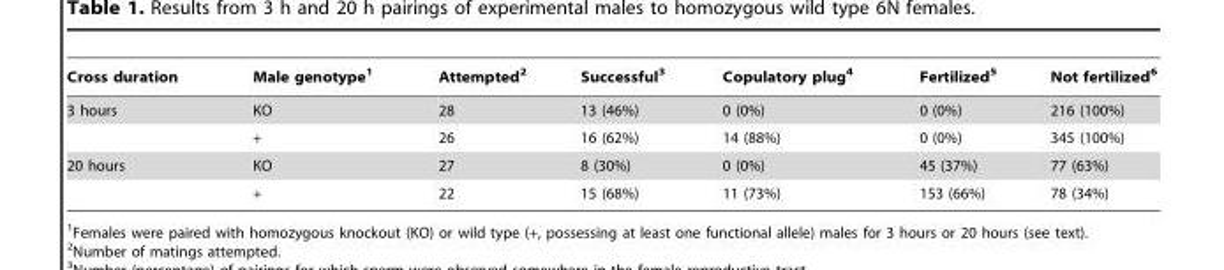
<table><thead><tr><td>Cross duration</td><td>Male genotype<sup>1</sup></td><td>Attempted<sup>2</sup></td><td>Successful<sup>3</sup></td><td>Copulatory plug<sup>4</sup></td><td>Fertilized<sup>5</sup></td><td>Not fertilized<sup>6</sup></td></tr></thead><tbody><tr><td rowspan="2">3 hours</td><td>KO</td><td>28</td><td>13 (46%)</td><td>0 (0%)</td><td>0 (0%)</td><td>216 (100%)</td></tr><tr><td>+</td><td>26</td><td>16 (62%)</td><td>14 (88%)</td><td>0 (0%)</td><td>345 (100%)</td></tr><tr><td rowspan="2">20 hours</td><td>KO</td><td>27</td><td>8 (30%)</td><td>0 (0%)</td><td>45 (37%)</td><td>77 (63%)</td></tr><tr><td>+</td><td>22</td><td>15 (68%)</td><td>11 (73%)</td><td>153 (66%)</td><td>78 (34%)</td></tr></tbody></table>